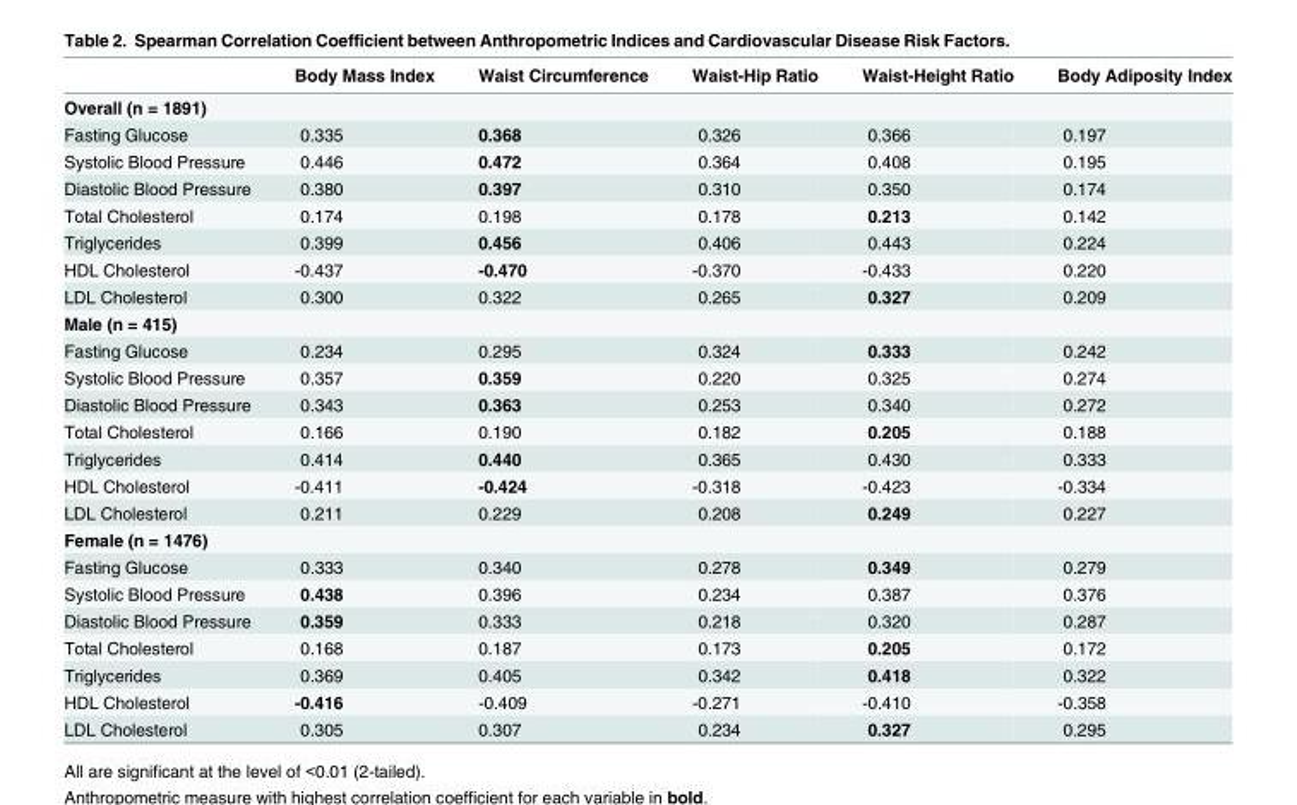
<table><thead><tr><td></td><td>Body Mass Index</td><td>Waist Circumference</td><td>Waist-Hip Ratio</td><td>Waist-Height Ratio</td><td>Body Adiposity Index</td></tr></thead><tbody><tr><td colspan="6">Overall (n = 1891)</td></tr><tr><td>Fasting Glucose</td><td>0.335</td><td>0.368</td><td>0.326</td><td>0.366</td><td>0.197</td></tr><tr><td>Systolic Blood Pressure</td><td>0.446</td><td>0.472</td><td>0.364</td><td>0.408</td><td>0.195</td></tr><tr><td>Diastolic Blood Pressure</td><td>0.380</td><td>0.397</td><td>0.310</td><td>0.350</td><td>0.174</td></tr><tr><td>Total Cholesterol</td><td>0.174</td><td>0.198</td><td>0.178</td><td>0.213</td><td>0.142</td></tr><tr><td>Triglycerides</td><td>0.399</td><td>0.456</td><td>0.406</td><td>0.443</td><td>0.224</td></tr><tr><td>HDL Cholesterol</td><td>-0.437</td><td>-0.470</td><td>-0.370</td><td>-0.433</td><td>0.220</td></tr><tr><td>LDL Cholesterol</td><td>0.300</td><td>0.322</td><td>0.265</td><td>0.327</td><td>0.209</td></tr><tr><td colspan="6">Male (n = 415)</td></tr><tr><td>Fasting Glucose</td><td>0.234</td><td>0.295</td><td>0.324</td><td>0.333</td><td>0.242</td></tr><tr><td>Systolic Blood Pressure</td><td>0.357</td><td>0.359</td><td>0.220</td><td>0.325</td><td>0.274</td></tr><tr><td>Diastolic Blood Pressure</td><td>0.343</td><td>0.363</td><td>0.253</td><td>0.340</td><td>0.272</td></tr><tr><td>Total Cholesterol</td><td>0.166</td><td>0.190</td><td>0.182</td><td>0.205</td><td>0.188</td></tr><tr><td>Triglycerides</td><td>0.414</td><td>0.440</td><td>0.365</td><td>0.430</td><td>0.333</td></tr><tr><td>HDL Cholesterol</td><td>-0.411</td><td>-0.424</td><td>-0.318</td><td>-0.423</td><td>-0.334</td></tr><tr><td>LDL Cholesterol</td><td>0.211</td><td>0.229</td><td>0.208</td><td>0.249</td><td>0.227</td></tr><tr><td colspan="6">Female (n = 1476)</td></tr><tr><td>Fasting Glucose</td><td>0.333</td><td>0.340</td><td>0.278</td><td>0.349</td><td>0.279</td></tr><tr><td>Systolic Blood Pressure</td><td>0.438</td><td>0.396</td><td>0.234</td><td>0.387</td><td>0.376</td></tr><tr><td>Diastolic Blood Pressure</td><td>0.359</td><td>0.333</td><td>0.218</td><td>0.320</td><td>0.287</td></tr><tr><td>Total Cholesterol</td><td>0.168</td><td>0.187</td><td>0.173</td><td>0.205</td><td>0.172</td></tr><tr><td>Triglycerides</td><td>0.369</td><td>0.405</td><td>0.342</td><td>0.418</td><td>0.322</td></tr><tr><td>HDL Cholesterol</td><td>-0.416</td><td>-0.409</td><td>-0.271</td><td>-0.410</td><td>-0.358</td></tr><tr><td>LDL Cholesterol</td><td>0.305</td><td>0.307</td><td>0.234</td><td>0.327</td><td>0.295</td></tr></tbody></table>